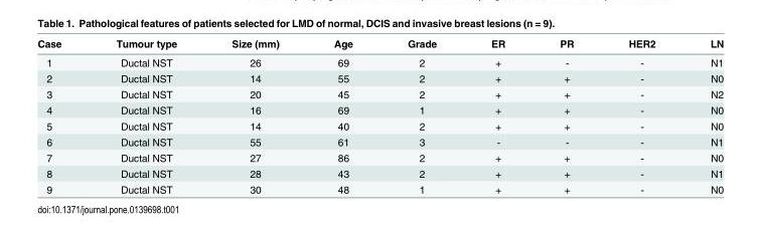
<table><thead><tr><td>Case</td><td>Tumour type</td><td>Size (mm)</td><td>Age</td><td>Grade</td><td>ER</td><td>PR</td><td>HER2</td><td>LN</td></tr></thead><tbody><tr><td>1</td><td>Ductal NST</td><td>26</td><td>69</td><td>2</td><td>+</td><td>-</td><td>-</td><td>N1</td></tr><tr><td>2</td><td>Ductal NST</td><td>14</td><td>55</td><td>2</td><td>+</td><td>+</td><td>-</td><td>N0</td></tr><tr><td>3</td><td>Ductal NST</td><td>20</td><td>45</td><td>2</td><td>+</td><td>+</td><td>-</td><td>N2</td></tr><tr><td>4</td><td>Ductal NST</td><td>16</td><td>69</td><td>1</td><td>+</td><td>+</td><td>-</td><td>N0</td></tr><tr><td>5</td><td>Ductal NST</td><td>14</td><td>40</td><td>2</td><td>+</td><td>+</td><td>-</td><td>N0</td></tr><tr><td>6</td><td>Ductal NST</td><td>55</td><td>61</td><td>3</td><td>-</td><td>-</td><td>-</td><td>N1</td></tr><tr><td>7</td><td>Ductal NST</td><td>27</td><td>86</td><td>2</td><td>+</td><td>+</td><td>-</td><td>N0</td></tr><tr><td>8</td><td>Ductal NST</td><td>28</td><td>43</td><td>2</td><td>+</td><td>+</td><td>-</td><td>N1</td></tr><tr><td>9</td><td>Ductal NST</td><td>30</td><td>48</td><td>1</td><td>+</td><td>+</td><td>-</td><td>N0</td></tr></tbody></table>